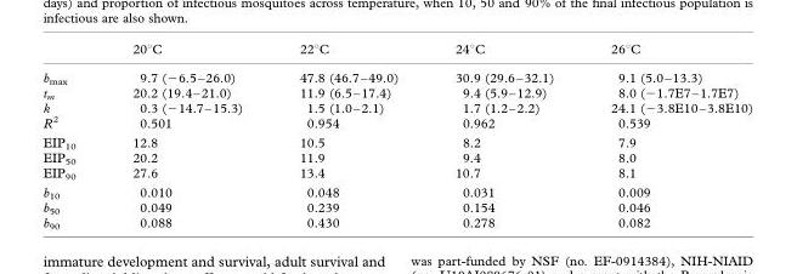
<table><thead><tr><td></td><td>20°C</td><td>22°C</td><td>24°C</td><td>26°C</td></tr></thead><tbody><tr><td>b<sub>max</sub></td><td>9.7 (−6.5–26.0)</td><td>47.8 (46.7–49.0)</td><td>30.9 (29.6–32.1)</td><td>9.1 (5.0–13.3)</td></tr><tr><td>t<sub>m</sub></td><td>20.2 (19.4–21.0)</td><td>11.9 (6.5–17.4)</td><td>9.4 (5.9–12.9)</td><td>8.0 (−1.7E7–1.7E7)</td></tr><tr><td>k</td><td>0.3 (−14.7–15.3)</td><td>1.5 (1.0–2.1)</td><td>1.7 (1.2–2.2)</td><td>24.1 (−3.8E10–3.8E10)</td></tr><tr><td>R<sup>2</sup></td><td>0.501</td><td>0.954</td><td>0.962</td><td>0.539</td></tr><tr><td>EIP<sub>10</sub></td><td>12.8</td><td>10.5</td><td>8.2</td><td>7.9</td></tr><tr><td>EIP<sub>50</sub></td><td>20.2</td><td>11.9</td><td>9.4</td><td>8.0</td></tr><tr><td>EIP<sub>90</sub></td><td>27.6</td><td>13.4</td><td>10.7</td><td>8.1</td></tr><tr><td>b<sub>10</sub></td><td>0.010</td><td>0.048</td><td>0.031</td><td>0.009</td></tr><tr><td>b<sub>50</sub></td><td>0.049</td><td>0.239</td><td>0.154</td><td>0.046</td></tr><tr><td>b<sub>90</sub></td><td>0.088</td><td>0.430</td><td>0.278</td><td>0.082</td></tr></tbody></table>